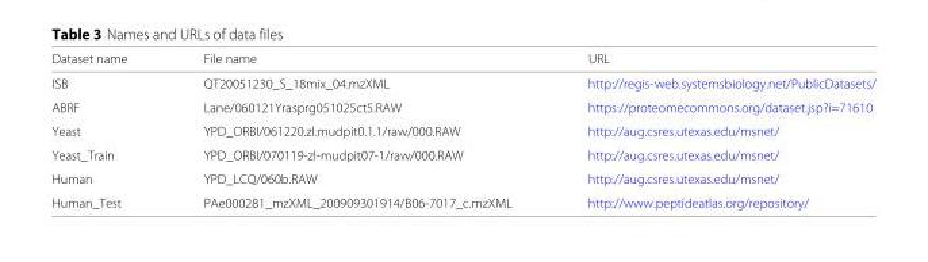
<table><thead><tr><td>Dataset name</td><td>File name</td><td>URL</td></tr></thead><tbody><tr><td>ISB</td><td>QT20051230_S_18mix_04.mzXML</td><td>http://regis-web.systemsbiology.net/PublicDatasets/</td></tr><tr><td>ABRF</td><td>Lane/060121Yrasprg051025ct5.RAW</td><td>https://proteomecommons.org/dataset.jsp?i=71610</td></tr><tr><td>Yeast</td><td>YPD_ORBI/061220.zl.mudpit0.1.1/raw/000.RAW</td><td>http://aug.csres.utexas.edu/msnet/</td></tr><tr><td>Yeast_Train</td><td>YPD_ORBI/070119-zl-mudpit07-1/raw/000.RAW</td><td>http://aug.csres.utexas.edu/msnet/</td></tr><tr><td>Human</td><td>YPD_LCQ/060b.RAW</td><td>http://aug.csres.utexas.edu/msnet/</td></tr><tr><td>Human_Test</td><td>PAe000281_mzXML_200909301914/B06-7017_c.mzXML</td><td>http://www.peptideatlas.org/repository/</td></tr></tbody></table>